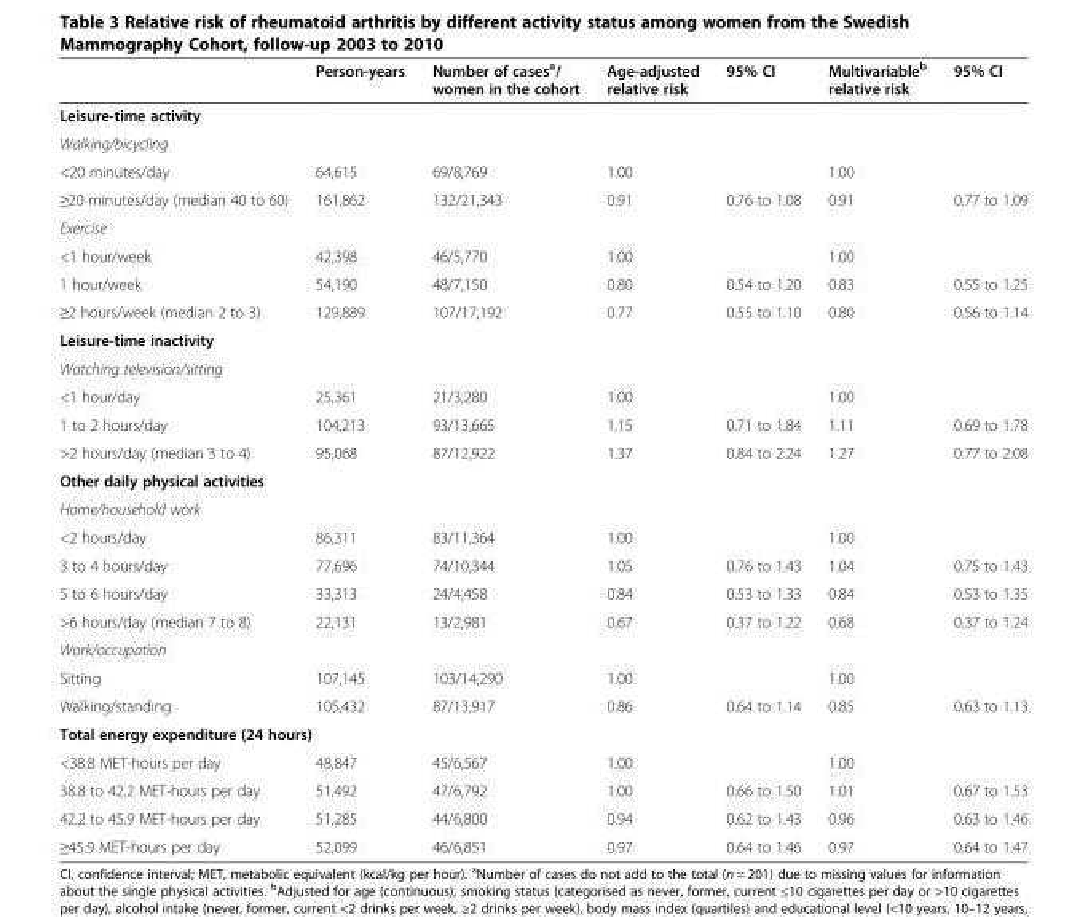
<table><thead><tr><td></td><td>Person-years</td><td>Number of cases<sup>a</sup>/ women in the cohort</td><td>Age-adjusted relative risk</td><td>95% CI</td><td>Multivariable<sup>b</sup> relative risk</td><td>95% CI</td></tr></thead><tbody><tr><td colspan="7">Leisure-time activity</td></tr><tr><td colspan="7">Walking/bicycling</td></tr><tr><td>&lt;20 minutes/day</td><td>64,615</td><td>69/8,769</td><td>1.00</td><td></td><td>1.00</td><td></td></tr><tr><td>≥20 minutes/day (median 40 to 60)</td><td>161,862</td><td>132/21,343</td><td>0.91</td><td>0.76 to 1.08</td><td>0.91</td><td>0.77 to 1.09</td></tr><tr><td colspan="7">Exercise</td></tr><tr><td>&lt;1 hour/week</td><td>42,398</td><td>46/5,770</td><td>1.00</td><td></td><td>1.00</td><td></td></tr><tr><td>1 hour/week</td><td>54,190</td><td>48/7,150</td><td>0.80</td><td>0.54 to 1.20</td><td>0.83</td><td>0.55 to 1.25</td></tr><tr><td>≥2 hours/week (median 2 to 3)</td><td>129,889</td><td>107/17,192</td><td>0.77</td><td>0.55 to 1.10</td><td>0.80</td><td>0.56 to 1.14</td></tr><tr><td colspan="7">Leisure-time inactivity</td></tr><tr><td colspan="7">Watching television/sitting</td></tr><tr><td>&lt;1 hour/day</td><td>25,361</td><td>21/3,280</td><td>1.00</td><td></td><td>1.00</td><td></td></tr><tr><td>1 to 2 hours/day</td><td>104,213</td><td>93/13,665</td><td>1.15</td><td>0.71 to 1.84</td><td>1.11</td><td>0.69 to 1.78</td></tr><tr><td>&gt;2 hours/day (median 3 to 4)</td><td>95,068</td><td>87/12,922</td><td>1.37</td><td>0.84 to 2.24</td><td>1.27</td><td>0.77 to 2.08</td></tr><tr><td colspan="7">Other daily physical activities</td></tr><tr><td colspan="7">Home/household work</td></tr><tr><td>&lt;2 hours/day</td><td>86,311</td><td>83/11,364</td><td>1.00</td><td></td><td>1.00</td><td></td></tr><tr><td>3 to 4 hours/day</td><td>77,696</td><td>74/10,344</td><td>1.05</td><td>0.76 to 1.43</td><td>1.04</td><td>0.75 to 1.43</td></tr><tr><td>5 to 6 hours/day</td><td>33,313</td><td>24/4,458</td><td>0.84</td><td>0.53 to 1.33</td><td>0.84</td><td>0.53 to 1.35</td></tr><tr><td>&gt;6 hours/day (median 7 to 8)</td><td>22,131</td><td>13/2,981</td><td>0.67</td><td>0.37 to 1.22</td><td>0.68</td><td>0.37 to 1.24</td></tr><tr><td colspan="7">Work/occupation</td></tr><tr><td>Sitting</td><td>107,145</td><td>103/14,290</td><td>1.00</td><td></td><td>1.00</td><td></td></tr><tr><td>Walking/standing</td><td>105,432</td><td>87/13,917</td><td>0.86</td><td>0.64 to 1.14</td><td>0.85</td><td>0.63 to 1.13</td></tr><tr><td colspan="7">Total energy expenditure (24 hours)</td></tr><tr><td>&lt;38.8 MET-hours per day</td><td>48,847</td><td>45/6,567</td><td>1.00</td><td></td><td>1.00</td><td></td></tr><tr><td>38.8 to 42.2 MET-hours per day</td><td>51,492</td><td>47/6,792</td><td>1.00</td><td>0.66 to 1.50</td><td>1.01</td><td>0.67 to 1.53</td></tr><tr><td>42.2 to 45.9 MET-hours per day</td><td>51,285</td><td>44/6,800</td><td>0.94</td><td>0.62 to 1.43</td><td>0.96</td><td>0.63 to 1.46</td></tr><tr><td>≥45.9 MET-hours per day</td><td>52,099</td><td>46/6,851</td><td>0.97</td><td>0.64 to 1.46</td><td>0.97</td><td>0.64 to 1.47</td></tr></tbody></table>